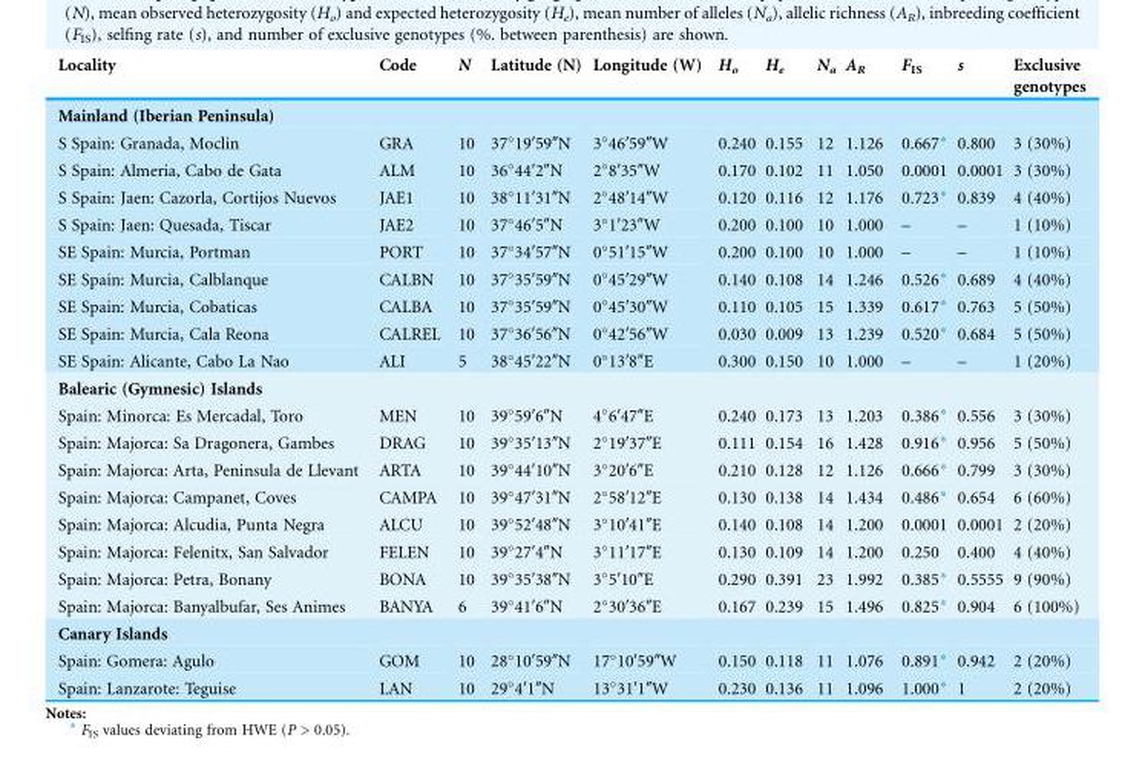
<table><thead><tr><td>Locality</td><td>Code</td><td>N</td><td>Latitude (N)</td><td>Longitude (W)</td><td>H<sub>o</sub></td><td>H<sub>e</sub></td><td>N<sub>a</sub></td><td>A<sub>R</sub></td><td>F<sub>IS</sub></td><td>s</td><td>Exclusive genotypes</td></tr></thead><tbody><tr><td colspan="12">Mainland (Iberian Peninsula)</td></tr><tr><td>S Spain: Granada, Moclin</td><td>GRA</td><td>10</td><td>37°19′59″N</td><td>3°46′59″W</td><td>0.240</td><td>0.155</td><td>12</td><td>1.126</td><td>0.667*</td><td>0.800</td><td>3 (30%)</td></tr><tr><td>S Spain: Almeria, Cabo de Gata</td><td>ALM</td><td>10</td><td>36°44′2″N</td><td>2°8′35″W</td><td>0.170</td><td>0.102</td><td>11</td><td>1.050</td><td>0.0001</td><td>0.0001</td><td>3 (30%)</td></tr><tr><td>S Spain: Jaen: Cazorla, Cortijos Nuevos</td><td>JAE1</td><td>10</td><td>38°11′31″N</td><td>2°48′14″W</td><td>0.120</td><td>0.116</td><td>12</td><td>1.176</td><td>0.723*</td><td>0.839</td><td>4 (40%)</td></tr><tr><td>S Spain: Jaen: Quesada, Tiscar</td><td>JAE2</td><td>10</td><td>37°46′5″N</td><td>3°1′23″W</td><td>0.200</td><td>0.100</td><td>10</td><td>1.000</td><td>–</td><td>–</td><td>1 (10%)</td></tr><tr><td>SE Spain: Murcia, Portman</td><td>PORT</td><td>10</td><td>37°34′57″N</td><td>0°51′15″W</td><td>0.200</td><td>0.100</td><td>10</td><td>1.000</td><td>–</td><td>–</td><td>1 (10%)</td></tr><tr><td>SE Spain: Murcia, Calblanque</td><td>CALBN</td><td>10</td><td>37°35′59″N</td><td>0°45′29″W</td><td>0.140</td><td>0.108</td><td>14</td><td>1.246</td><td>0.526*</td><td>0.689</td><td>4 (40%)</td></tr><tr><td>SE Spain: Murcia, Cobaticas</td><td>CALBA</td><td>10</td><td>37°35′59″N</td><td>0°45′30″W</td><td>0.110</td><td>0.105</td><td>15</td><td>1.339</td><td>0.617*</td><td>0.763</td><td>5 (50%)</td></tr><tr><td>SE Spain: Murcia, Cala Reona</td><td>CALREL</td><td>10</td><td>37°36′56″N</td><td>0°42′56″W</td><td>0.030</td><td>0.009</td><td>13</td><td>1.239</td><td>0.520*</td><td>0.684</td><td>5 (50%)</td></tr><tr><td>SE Spain: Alicante, Cabo La Nao</td><td>ALI</td><td>5</td><td>38°45′22″N</td><td>0°13′8″E</td><td>0.300</td><td>0.150</td><td>10</td><td>1.000</td><td>–</td><td>–</td><td>1 (20%)</td></tr><tr><td colspan="12">Balearic (Gymnesic) Islands</td></tr><tr><td>Spain: Minorca: Es Mercadal, Toro</td><td>MEN</td><td>10</td><td>39°59′6″N</td><td>4°6′47″E</td><td>0.240</td><td>0.173</td><td>13</td><td>1.203</td><td>0.386*</td><td>0.556</td><td>3 (30%)</td></tr><tr><td>Spain: Majorca: Sa Dragonera, Gambes</td><td>DRAG</td><td>10</td><td>39°35′13″N</td><td>2°19′37″E</td><td>0.111</td><td>0.154</td><td>16</td><td>1.428</td><td>0.916*</td><td>0.956</td><td>5 (50%)</td></tr><tr><td>Spain: Majorca: Arta, Peninsula de Llevant</td><td>ARTA</td><td>10</td><td>39°44′10″N</td><td>3°20′6″E</td><td>0.210</td><td>0.128</td><td>12</td><td>1.126</td><td>0.666*</td><td>0.799</td><td>3 (30%)</td></tr><tr><td>Spain: Majorca: Campanet, Coves</td><td>CAMPA</td><td>10</td><td>39°47′31″N</td><td>2°58′12″E</td><td>0.130</td><td>0.138</td><td>14</td><td>1.434</td><td>0.486*</td><td>0.654</td><td>6 (60%)</td></tr><tr><td>Spain: Majorca: Alcudia, Punta Negra</td><td>ALCU</td><td>10</td><td>39°52′48″N</td><td>3°10′41″E</td><td>0.140</td><td>0.108</td><td>14</td><td>1.200</td><td>0.0001</td><td>0.0001</td><td>2 (20%)</td></tr><tr><td>Spain: Majorca: Felenitx, San Salvador</td><td>FELEN</td><td>10</td><td>39°27′4″N</td><td>3°11′17″E</td><td>0.130</td><td>0.109</td><td>14</td><td>1.200</td><td>0.250</td><td>0.400</td><td>4 (40%)</td></tr><tr><td>Spain: Majorca: Petra, Bonany</td><td>BONA</td><td>10</td><td>39°35′38″N</td><td>3°5′10″E</td><td>0.290</td><td>0.391</td><td>23</td><td>1.992</td><td>0.385*</td><td>0.5555</td><td>9 (90%)</td></tr><tr><td>Spain: Majorca: Banyalbufar, Ses Animes</td><td>BANYA</td><td>6</td><td>39°41′6″N</td><td>2°30′36″E</td><td>0.167</td><td>0.239</td><td>15</td><td>1.496</td><td>0.825*</td><td>0.904</td><td>6 (100%)</td></tr><tr><td colspan="12">Canary Islands</td></tr><tr><td>Spain: Gomera: Agulo</td><td>GOM</td><td>10</td><td>28°10′59″N</td><td>17°10′59″W</td><td>0.150</td><td>0.118</td><td>11</td><td>1.076</td><td>0.891*</td><td>0.942</td><td>2 (20%)</td></tr><tr><td>Spain: Lanzarote: Teguise</td><td>LAN</td><td>10</td><td>29°4′1″N</td><td>13°31′1″W</td><td>0.230</td><td>0.136</td><td>11</td><td>1.096</td><td>1.000*</td><td>1</td><td>2 (20%)</td></tr></tbody></table>